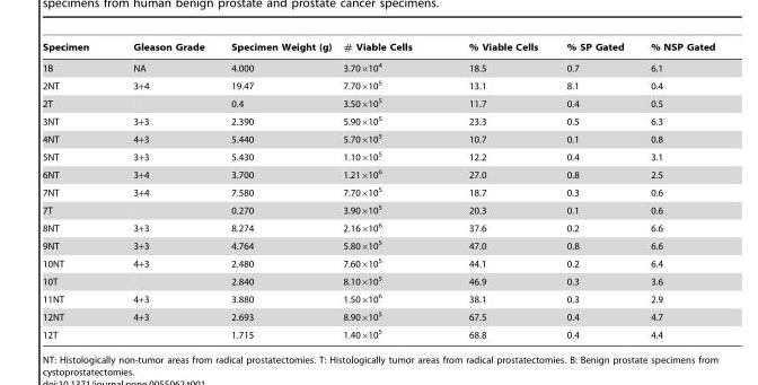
<table><thead><tr><td>Specimen</td><td>Gleason Grade</td><td>Specimen Weight (g)</td><td># Viable Cells</td><td>% Viable Cells</td><td>% SP Gated</td><td>% NSP Gated</td></tr></thead><tbody><tr><td>1B</td><td>NA</td><td>4.000</td><td>3.70×10<sup>4</sup></td><td>18.5</td><td>0.7</td><td>6.1</td></tr><tr><td>2NT</td><td>3+4</td><td>19.47</td><td>7.70×10<sup>5</sup></td><td>13.1</td><td>8.1</td><td>0.4</td></tr><tr><td>2T</td><td></td><td>0.4</td><td>3.50×10<sup>5</sup></td><td>11.7</td><td>0.4</td><td>0.5</td></tr><tr><td>3NT</td><td>3+3</td><td>2.390</td><td>5.90×10<sup>5</sup></td><td>23.3</td><td>0.5</td><td>6.3</td></tr><tr><td>4NT</td><td>4+3</td><td>5.440</td><td>5.70×10<sup>5</sup></td><td>10.7</td><td>0.1</td><td>0.8</td></tr><tr><td>5NT</td><td>3+3</td><td>5.430</td><td>1.10×10<sup>5</sup></td><td>12.2</td><td>0.4</td><td>3.1</td></tr><tr><td>6NT</td><td>3+4</td><td>3.700</td><td>1.21×10<sup>6</sup></td><td>27.0</td><td>0.8</td><td>2.5</td></tr><tr><td>7NT</td><td>3+4</td><td>7.580</td><td>7.70×10<sup>5</sup></td><td>18.7</td><td>0.3</td><td>0.6</td></tr><tr><td>7T</td><td></td><td>0.270</td><td>3.90×10<sup>5</sup></td><td>20.3</td><td>0.1</td><td>0.6</td></tr><tr><td>8NT</td><td>3+3</td><td>8.274</td><td>2.16×10<sup>6</sup></td><td>37.6</td><td>0.2</td><td>6.6</td></tr><tr><td>9NT</td><td>3+3</td><td>4.764</td><td>5.80×10<sup>5</sup></td><td>47.0</td><td>0.8</td><td>6.6</td></tr><tr><td>10NT</td><td>4+3</td><td>2.480</td><td>7.60×10<sup>5</sup></td><td>44.1</td><td>0.2</td><td>6.4</td></tr><tr><td>10T</td><td></td><td>2.840</td><td>8.10×10<sup>5</sup></td><td>46.9</td><td>0.3</td><td>3.6</td></tr><tr><td>11NT</td><td>4+3</td><td>3.880</td><td>1.50×10<sup>6</sup></td><td>38.1</td><td>0.3</td><td>2.9</td></tr><tr><td>12NT</td><td>4+3</td><td>2.693</td><td>8.90×10<sup>5</sup></td><td>67.5</td><td>0.4</td><td>4.7</td></tr><tr><td>12T</td><td></td><td>1.715</td><td>1.40×10<sup>5</sup></td><td>68.8</td><td>0.4</td><td>4.4</td></tr></tbody></table>